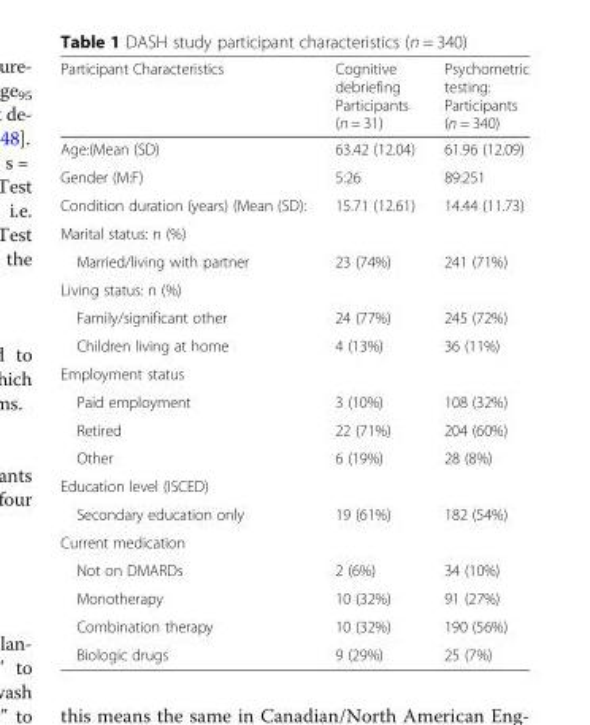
<table><thead><tr><td>Participant Characteristics</td><td>Cognitive debriefing Participants (n = 31)</td><td>Psychometric testing: Participants (n = 340)</td></tr></thead><tbody><tr><td>Age:(Mean (SD)</td><td>63.42 (12.04)</td><td>61.96 (12.09)</td></tr><tr><td>Gender (M:F)</td><td>5:26</td><td>89:251</td></tr><tr><td>Condition duration (years) (Mean (SD):</td><td>15.71 (12.61)</td><td>14.44 (11.73)</td></tr><tr><td colspan="3">Marital status: n (%)</td></tr><tr><td>Married/living with partner</td><td>23 (74%)</td><td>241 (71%)</td></tr><tr><td colspan="3">Living status: n (%)</td></tr><tr><td>Family/significant other</td><td>24 (77%)</td><td>245 (72%)</td></tr><tr><td>Children living at home</td><td>4 (13%)</td><td>36 (11%)</td></tr><tr><td colspan="3">Employment status</td></tr><tr><td>Paid employment</td><td>3 (10%)</td><td>108 (32%)</td></tr><tr><td>Retired</td><td>22 (71%)</td><td>204 (60%)</td></tr><tr><td>Other</td><td>6 (19%)</td><td>28 (8%)</td></tr><tr><td colspan="3">Education level (ISCED)</td></tr><tr><td>Secondary education only</td><td>19 (61%)</td><td>182 (54%)</td></tr><tr><td colspan="3">Current medication</td></tr><tr><td>Not on DMARDs</td><td>2 (6%)</td><td>34 (10%)</td></tr><tr><td>Monotherapy</td><td>10 (32%)</td><td>91 (27%)</td></tr><tr><td>Combination therapy</td><td>10 (32%)</td><td>190 (56%)</td></tr><tr><td>Biologic drugs</td><td>9 (29%)</td><td>25 (7%)</td></tr></tbody></table>